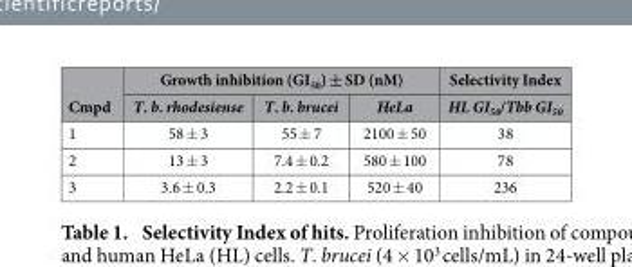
<table><thead><tr><td rowspan="2">Cmpd</td><td colspan="3">Growth inhibition (GI<sub>50</sub>) ± SD (nM)</td><td rowspan="2">Selectivity Index HL GI<sub>50</sub>/Tbb GI<sub>50</sub></td></tr><tr><td>T. b. rhodesiense</td><td>T. b. brucei</td><td>HeLa</td></tr></thead><tbody><tr><td>1</td><td>58 ± 3</td><td>55 ± 7</td><td>2100 ± 50</td><td>38</td></tr><tr><td>2</td><td>13 ± 3</td><td>7.4 ± 0.2</td><td>580 ± 100</td><td>78</td></tr><tr><td>3</td><td>3.6 ± 0.3</td><td>2.2 ± 0.1</td><td>520 ± 40</td><td>236</td></tr></tbody></table>